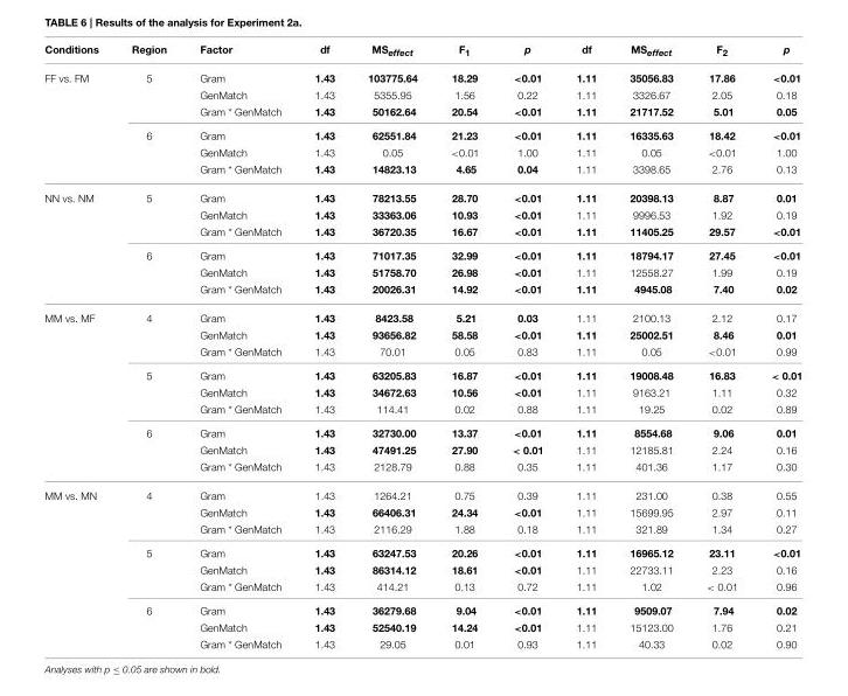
<table><thead><tr><td>Conditions</td><td>Region</td><td>Factor</td><td>df</td><td>MS<sub>effect</sub></td><td>F<sub>1</sub></td><td>p</td><td>df</td><td>MS<sub>effect</sub></td><td>F<sub>2</sub></td><td>p</td></tr></thead><tbody><tr><td rowspan="6">FF vs. FM</td><td>5</td><td>Gram</td><td>1.43</td><td>103775.64</td><td>18.29</td><td>&lt;0.01</td><td>1.11</td><td>35056.83</td><td>17.86</td><td>&lt;0.01</td></tr><tr><td></td><td>GenMatch</td><td>1.43</td><td>5355.95</td><td>1.56</td><td>0.22</td><td>1.11</td><td>3326.67</td><td>2.05</td><td>0.18</td></tr><tr><td></td><td>Gram * GenMatch</td><td>1.43</td><td>50162.64</td><td>20.54</td><td>&lt;0.01</td><td>1.11</td><td>21717.52</td><td>5.01</td><td>0.05</td></tr><tr><td>6</td><td>Gram</td><td>1.43</td><td>62551.84</td><td>21.23</td><td>&lt;0.01</td><td>1.11</td><td>16335.63</td><td>18.42</td><td>&lt;0.01</td></tr><tr><td></td><td>GenMatch</td><td>1.43</td><td>0.05</td><td>&lt;0.01</td><td>1.00</td><td>1.11</td><td>0.05</td><td>&lt;0.01</td><td>1.00</td></tr><tr><td></td><td>Gram * GenMatch</td><td>1.43</td><td>14823.13</td><td>4.65</td><td>0.04</td><td>1.11</td><td>3398.65</td><td>2.76</td><td>0.13</td></tr><tr><td rowspan="6">NN vs. NM</td><td>5</td><td>Gram</td><td>1.43</td><td>78213.55</td><td>28.70</td><td>&lt;0.01</td><td>1.11</td><td>20398.13</td><td>8.87</td><td>0.01</td></tr><tr><td></td><td>GenMatch</td><td>1.43</td><td>33363.06</td><td>10.93</td><td>&lt;0.01</td><td>1.11</td><td>9996.53</td><td>1.92</td><td>0.19</td></tr><tr><td></td><td>Gram * GenMatch</td><td>1.43</td><td>36720.35</td><td>16.67</td><td>&lt;0.01</td><td>1.11</td><td>11405.25</td><td>29.57</td><td>&lt;0.01</td></tr><tr><td>6</td><td>Gram</td><td>1.43</td><td>71017.35</td><td>32.99</td><td>&lt;0.01</td><td>1.11</td><td>18794.17</td><td>27.45</td><td>&lt;0.01</td></tr><tr><td></td><td>GenMatch</td><td>1.43</td><td>51758.70</td><td>26.98</td><td>&lt;0.01</td><td>1.11</td><td>12558.27</td><td>1.99</td><td>0.19</td></tr><tr><td></td><td>Gram * GenMatch</td><td>1.43</td><td>20026.31</td><td>14.92</td><td>&lt;0.01</td><td>1.11</td><td>4945.08</td><td>7.40</td><td>0.02</td></tr><tr><td rowspan="9">MM vs. MF</td><td>4</td><td>Gram</td><td>1.43</td><td>8423.58</td><td>5.21</td><td>0.03</td><td>1.11</td><td>2100.13</td><td>2.12</td><td>0.17</td></tr><tr><td></td><td>GenMatch</td><td>1.43</td><td>93656.82</td><td>58.58</td><td>&lt;0.01</td><td>1.11</td><td>25002.51</td><td>8.46</td><td>0.01</td></tr><tr><td></td><td>Gram * GenMatch</td><td>1.43</td><td>70.01</td><td>0.05</td><td>0.83</td><td>1.11</td><td>0.05</td><td>&lt;0.01</td><td>0.99</td></tr><tr><td>5</td><td>Gram</td><td>1.43</td><td>63205.83</td><td>16.87</td><td>&lt;0.01</td><td>1.11</td><td>19008.48</td><td>16.83</td><td>&lt; 0.01</td></tr><tr><td></td><td>GenMatch</td><td>1.43</td><td>34672.63</td><td>10.56</td><td>&lt;0.01</td><td>1.11</td><td>9163.21</td><td>1.11</td><td>0.32</td></tr><tr><td></td><td>Gram * GenMatch</td><td>1.43</td><td>114.41</td><td>0.02</td><td>0.88</td><td>1.11</td><td>19.25</td><td>0.02</td><td>0.89</td></tr><tr><td>6</td><td>Gram</td><td>1.43</td><td>32730.00</td><td>13.37</td><td>&lt;0.01</td><td>1.11</td><td>8554.68</td><td>9.06</td><td>0.01</td></tr><tr><td></td><td>GenMatch</td><td>1.43</td><td>47491.25</td><td>27.90</td><td>&lt; 0.01</td><td>1.11</td><td>12185.81</td><td>2.24</td><td>0.16</td></tr><tr><td></td><td>Gram * GenMatch</td><td>1.43</td><td>2128.79</td><td>0.88</td><td>0.35</td><td>1.11</td><td>401.36</td><td>1.17</td><td>0.30</td></tr><tr><td rowspan="9">MM vs. MN</td><td>4</td><td>Gram</td><td>1.43</td><td>1264.21</td><td>0.75</td><td>0.39</td><td>1.11</td><td>231.00</td><td>0.38</td><td>0.55</td></tr><tr><td></td><td>GenMatch</td><td>1.43</td><td>66406.31</td><td>24.34</td><td>&lt;0.01</td><td>1.11</td><td>15699.95</td><td>2.97</td><td>0.11</td></tr><tr><td></td><td>Gram * GenMatch</td><td>1.43</td><td>2116.29</td><td>1.88</td><td>0.18</td><td>1.11</td><td>321.89</td><td>1.34</td><td>0.27</td></tr><tr><td>5</td><td>Gram</td><td>1.43</td><td>63247.53</td><td>20.26</td><td>&lt;0.01</td><td>1.11</td><td>16965.12</td><td>23.11</td><td>&lt;0.01</td></tr><tr><td></td><td>GenMatch</td><td>1.43</td><td>86314.12</td><td>18.61</td><td>&lt;0.01</td><td>1.11</td><td>22733.11</td><td>2.23</td><td>0.16</td></tr><tr><td></td><td>Gram * GenMatch</td><td>1.43</td><td>414.21</td><td>0.13</td><td>0.72</td><td>1.11</td><td>1.02</td><td>&lt; 0.01</td><td>0.96</td></tr><tr><td>6</td><td>Gram</td><td>1.43</td><td>36279.68</td><td>9.04</td><td>&lt;0.01</td><td>1.11</td><td>9509.07</td><td>7.94</td><td>0.02</td></tr><tr><td></td><td>GenMatch</td><td>1.43</td><td>52540.19</td><td>14.24</td><td>&lt;0.01</td><td>1.11</td><td>15123.00</td><td>1.76</td><td>0.21</td></tr><tr><td></td><td>Gram * GenMatch</td><td>1.43</td><td>29.05</td><td>0.01</td><td>0.93</td><td>1.11</td><td>40.33</td><td>0.02</td><td>0.90</td></tr></tbody></table>